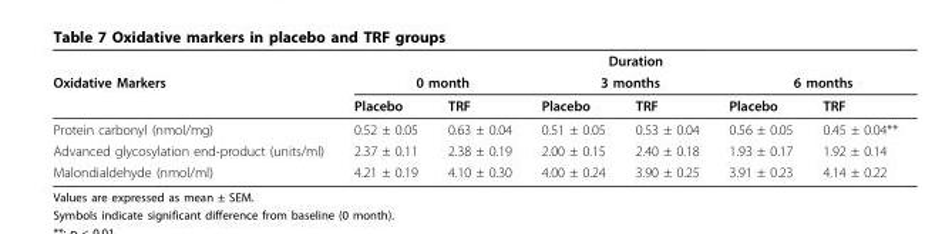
<table><thead><tr><td rowspan="3">Oxidative Markers</td><td colspan="6">Duration</td></tr><tr><td colspan="2">0 month</td><td colspan="2">3 months</td><td colspan="2">6 months</td></tr><tr><td>Placebo</td><td>TRF</td><td>Placebo</td><td>TRF</td><td>Placebo</td><td>TRF</td></tr></thead><tbody><tr><td>Protein carbonyl (nmol/mg)</td><td>0.52 ± 0.05</td><td>0.63 ± 0.04</td><td>0.51 ± 0.05</td><td>0.53 ± 0.04</td><td>0.56 ± 0.05</td><td>0.45 ± 0.04**</td></tr><tr><td>Advanced glycosylation end-product (units/ml)</td><td>2.37 ± 0.11</td><td>2.38 ± 0.19</td><td>2.00 ± 0.15</td><td>2.40 ± 0.18</td><td>1.93 ± 0.17</td><td>1.92 ± 0.14</td></tr><tr><td>Malondialdehyde (nmol/ml)</td><td>4.21 ± 0.19</td><td>4.10 ± 0.30</td><td>4.00 ± 0.24</td><td>3.90 ± 0.25</td><td>3.91 ± 0.23</td><td>4.14 ± 0.22</td></tr></tbody></table>